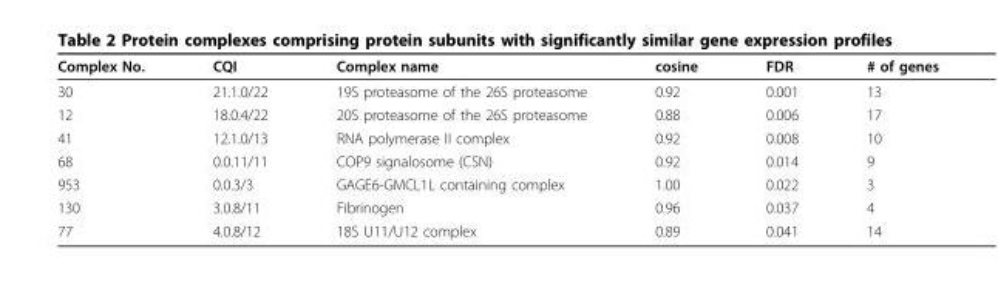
<table><thead><tr><td>Complex No.</td><td>CQI</td><td>Complex name</td><td>cosine</td><td>FDR</td><td># of genes</td></tr></thead><tbody><tr><td>30</td><td>21.1.0/22</td><td>19S proteasome of the 26S proteasome</td><td>0.92</td><td>0.001</td><td>13</td></tr><tr><td>12</td><td>18.0.4/22</td><td>20S proteasome of the 26S proteasome</td><td>0.88</td><td>0.006</td><td>17</td></tr><tr><td>41</td><td>12.1.0/13</td><td>RNA polymerase II complex</td><td>0.92</td><td>0.008</td><td>10</td></tr><tr><td>68</td><td>0.0.11/11</td><td>COP9 signalosome (CSN)</td><td>0.92</td><td>0.014</td><td>9</td></tr><tr><td>953</td><td>0.0.3/3</td><td>GAGE6-GMCL1L containing complex</td><td>1.00</td><td>0.022</td><td>3</td></tr><tr><td>130</td><td>3.0.8/11</td><td>Fibrinogen</td><td>0.96</td><td>0.037</td><td>4</td></tr><tr><td>77</td><td>4.0.8/12</td><td>18S U11/U12 complex</td><td>0.89</td><td>0.041</td><td>14</td></tr></tbody></table>